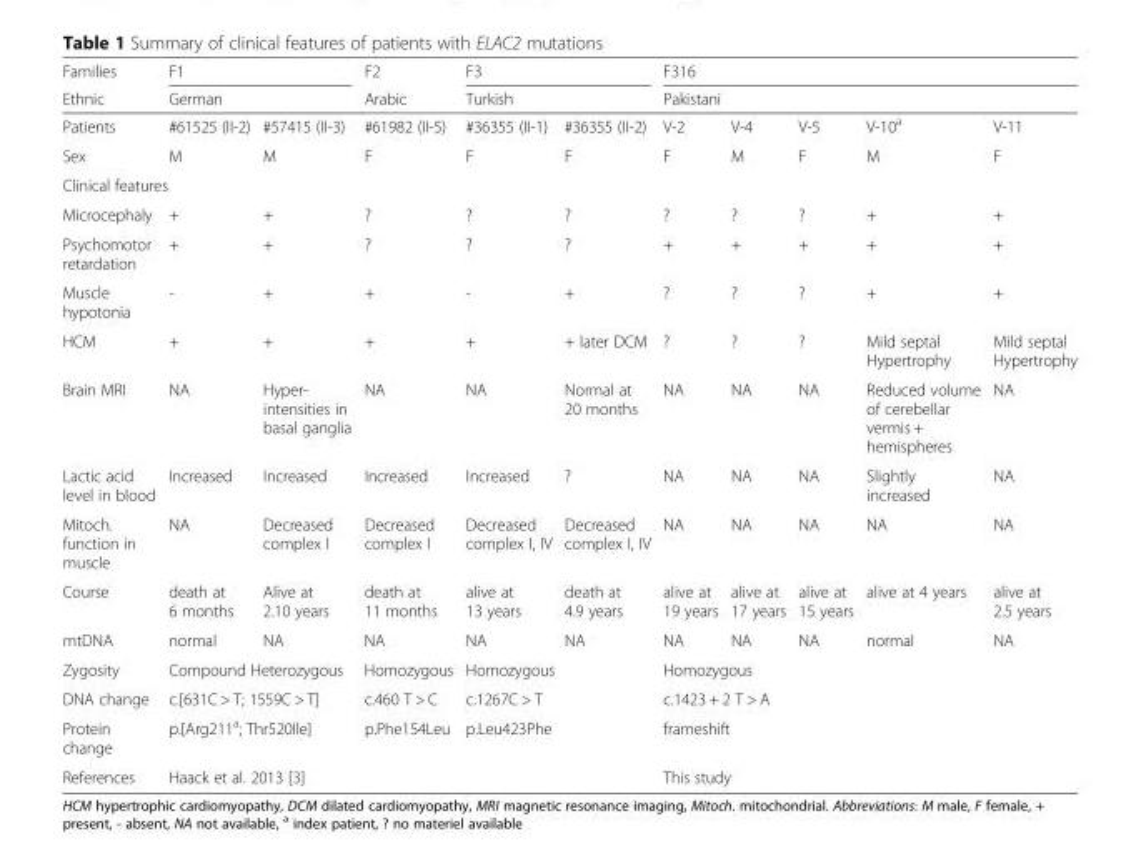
<table><thead><tr><td rowspan="3">Families Ethnic Patients</td><td rowspan="2" colspan="2">F1 German</td><td rowspan="3">F2 Arabic #61982 (II-5)</td><td rowspan="2" colspan="2">F3 Turkish</td><td rowspan="2" colspan="5">F316 Pakistani</td></tr><tr></tr><tr><td>#61525 (II-2)</td><td>#57415 (II-3)</td><td>#36355 (II-1)</td><td>#36355 (II-2)</td><td>V-2</td><td>V-4</td><td>V-5</td><td>V-10<sup>a</sup></td><td>V-11</td></tr></thead><tbody><tr><td>Sex</td><td>M</td><td>M</td><td>F</td><td>F</td><td>F</td><td>F</td><td>M</td><td>F</td><td>M</td><td>F</td></tr><tr><td colspan="11">Clinical features</td></tr><tr><td>Microcephaly</td><td>+</td><td>+</td><td>?</td><td>?</td><td>?</td><td>?</td><td>?</td><td>?</td><td>+</td><td>+</td></tr><tr><td>Psychomotor retardation</td><td>+</td><td>+</td><td>?</td><td>?</td><td>?</td><td>+</td><td>+</td><td>+</td><td>+</td><td>+</td></tr><tr><td>Muscle hypotonia</td><td>-</td><td>+</td><td>+</td><td>-</td><td>+</td><td>?</td><td>?</td><td>?</td><td>+</td><td>+</td></tr><tr><td>HCM</td><td>+</td><td>+</td><td>+</td><td>+</td><td>+ later DCM</td><td>?</td><td>?</td><td>?</td><td>Mild septal Hypertrophy</td><td>Mild septal Hypertrophy</td></tr><tr><td>Brain MRI</td><td>NA</td><td>Hyper- intensities in basal ganglia</td><td>NA</td><td>NA</td><td>Normal at 20 months</td><td>NA</td><td>NA</td><td>NA</td><td>Reduced volume of cerebellar vermis + hemispheres</td><td>NA</td></tr><tr><td>Lactic acid level in blood</td><td>Increased</td><td>Increased</td><td>Increased</td><td>Increased</td><td>?</td><td>NA</td><td>NA</td><td>NA</td><td>Slightly increased</td><td>NA</td></tr><tr><td>Mitoch. function in muscle</td><td>NA</td><td>Decreased complex I</td><td>Decreased complex I</td><td>Decreased complex I, IV</td><td>Decreased complex I, IV</td><td>NA</td><td>NA</td><td>NA</td><td>NA</td><td>NA</td></tr><tr><td>Course</td><td>death at 6 months</td><td>Alive at 2.10 years</td><td>death at 11 months</td><td>alive at 13 years</td><td>death at 4.9 years</td><td>alive at 19 years</td><td>alive at 17 years</td><td>alive at 15 years</td><td>alive at 4 years</td><td>alive at 2.5 years</td></tr><tr><td>mtDNA</td><td>normal</td><td>NA</td><td>NA</td><td>NA</td><td>NA</td><td>NA</td><td>NA</td><td>NA</td><td>normal</td><td>NA</td></tr><tr><td>Zygosity</td><td colspan="2">Compound Heterozygous</td><td>Homozygous</td><td colspan="2">Homozygous</td><td colspan="5">Homozygous</td></tr><tr><td>DNA change</td><td colspan="2">c.[631C &gt; T; 1559C &gt; T]</td><td>c.460 T &gt; C</td><td colspan="2">c.1267C &gt; T</td><td colspan="5">c.1423 + 2 T &gt; A</td></tr><tr><td>Protein change</td><td colspan="2">p.[Arg211<sup>a</sup>; Thr520Ile]</td><td>p.Phe154Leu</td><td colspan="2">p.Leu423Phe</td><td colspan="5">frameshift</td></tr><tr><td>References</td><td colspan="5">Haack et al. 2013 [3]</td><td colspan="5">This study</td></tr></tbody></table>